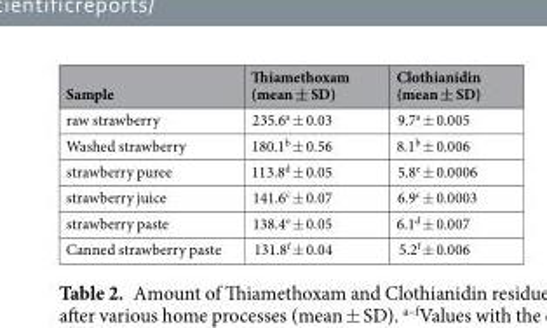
<table><thead><tr><td>Sample</td><td>Thiamethoxam (mean ± SD)</td><td>Clothianidin (mean ± SD)</td></tr></thead><tbody><tr><td>raw strawberry</td><td>235.6<sup>a</sup> ± 0.03</td><td>9.7<sup>a</sup> ± 0.005</td></tr><tr><td>Washed strawberry</td><td>180.1<sup>b</sup> ± 0.56</td><td>8.1<sup>b</sup> ± 0.006</td></tr><tr><td>strawberry puree</td><td>113.8<sup>d</sup> ± 0.05</td><td>5.8<sup>e</sup> ± 0.0006</td></tr><tr><td>strawberry juice</td><td>141.6<sup>c</sup> ± 0.07</td><td>6.9<sup>c</sup> ± 0.0003</td></tr><tr><td>strawberry paste</td><td>138.4<sup>e</sup> ± 0.05</td><td>6.1<sup>d</sup> ± 0.007</td></tr><tr><td>Canned strawberry paste</td><td>131.8<sup>f</sup> ± 0.04</td><td>5.2<sup>f</sup> ± 0.006</td></tr></tbody></table>